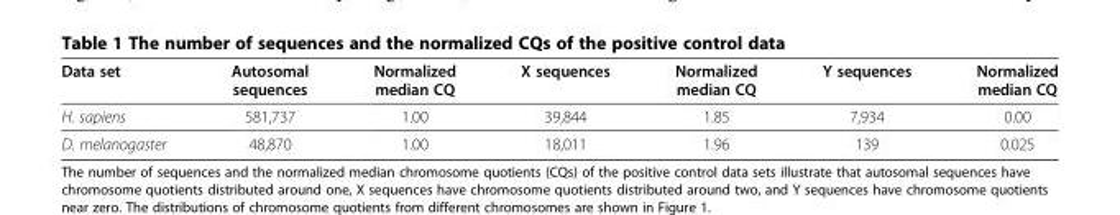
<table><thead><tr><td>Data set</td><td>Autosomal sequences</td><td>Normalized median CQ</td><td>X sequences</td><td>Normalized median CQ</td><td>Y sequences</td><td>Normalized median CQ</td></tr></thead><tbody><tr><td>H. sapiens</td><td>581,737</td><td>1.00</td><td>39,844</td><td>1.85</td><td>7,934</td><td>0.00</td></tr><tr><td>D. melanogaster</td><td>48,870</td><td>1.00</td><td>18,011</td><td>1.96</td><td>139</td><td>0.025</td></tr></tbody></table>